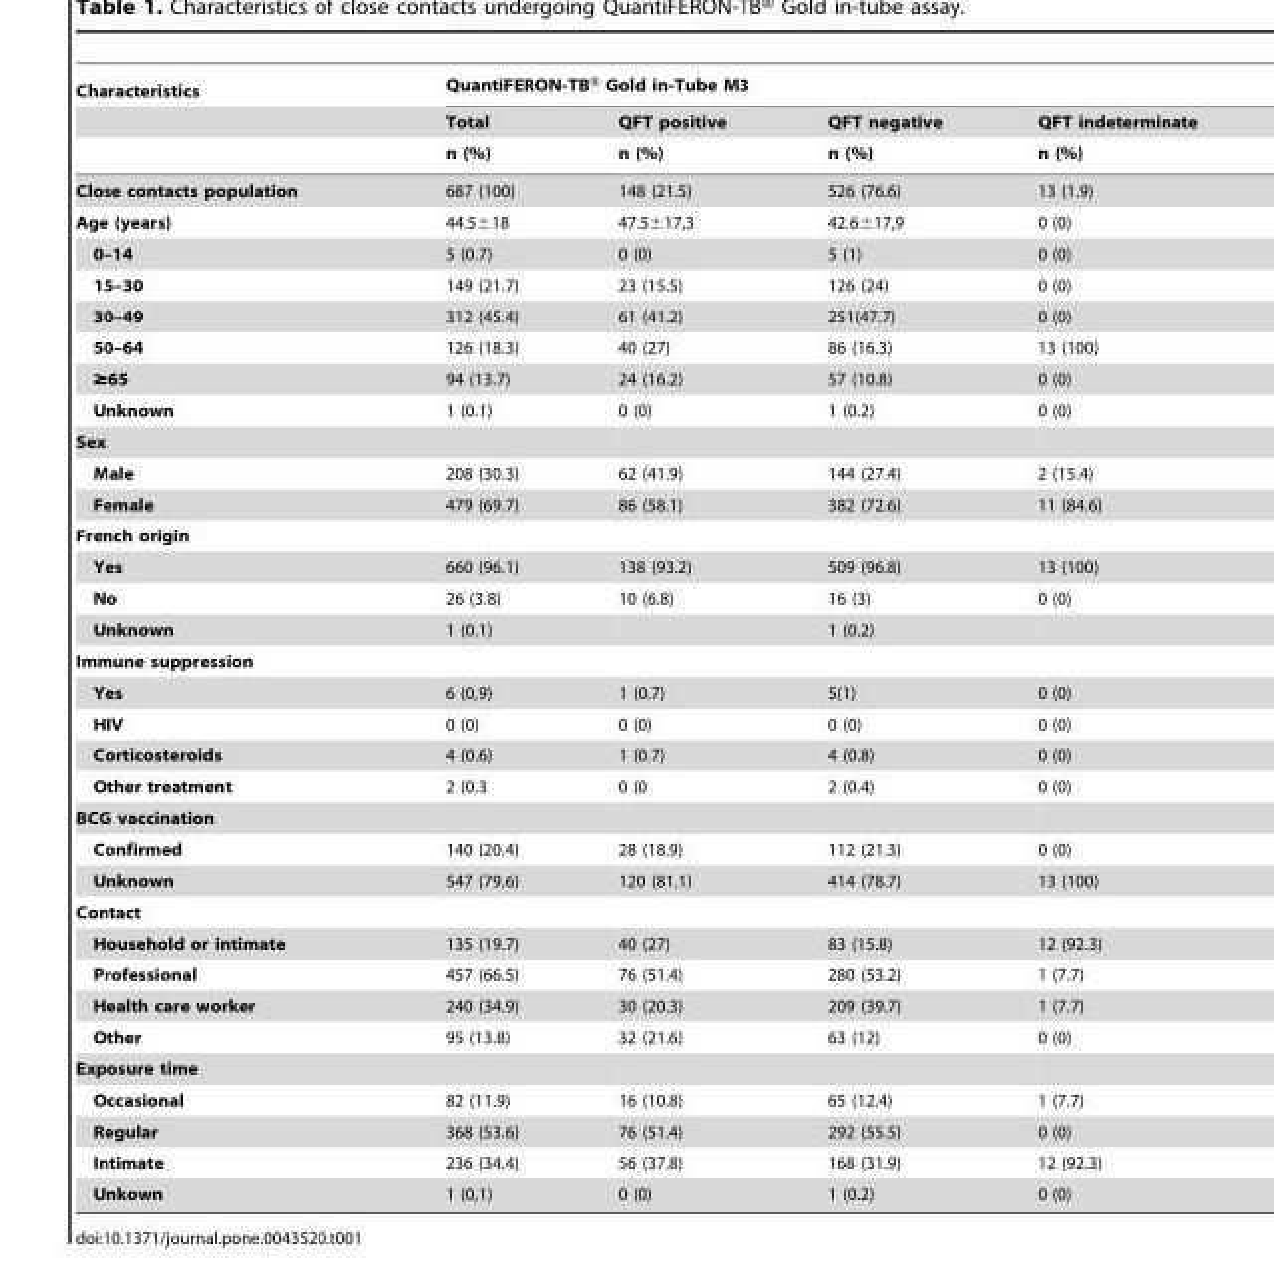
<table><thead><tr><td rowspan="3">Characteristics</td><td colspan="4">QuantiFERON-TB® Gold in-Tube M3</td></tr><tr><td rowspan="2">Total n (%)</td><td rowspan="2">QFT positive n (%)</td><td rowspan="2">QFT negative n (%)</td><td rowspan="2">QFT indeterminate n (%)</td></tr><tr></tr></thead><tbody><tr><td>Close contacts population</td><td>687 (100)</td><td>148 (21.5)</td><td>526 (76.6)</td><td>13 (1.9)</td></tr><tr><td>Age (years)</td><td>44.5±18</td><td>47.5±17,3</td><td>42.6±17,9</td><td>0 (0)</td></tr><tr><td>0–14</td><td>5 (0.7)</td><td>0 (0)</td><td>5 (1)</td><td>0 (0)</td></tr><tr><td>15–30</td><td>149 (21.7)</td><td>23 (15.5)</td><td>126 (24)</td><td>0 (0)</td></tr><tr><td>30–49</td><td>312 (45.4)</td><td>61 (41.2)</td><td>251(47.7)</td><td>0 (0)</td></tr><tr><td>50–64</td><td>126 (18.3)</td><td>40 (27)</td><td>86 (16.3)</td><td>13 (100)</td></tr><tr><td>≥65</td><td>94 (13.7)</td><td>24 (16.2)</td><td>57 (10.8)</td><td>0 (0)</td></tr><tr><td>Unknown</td><td>1 (0.1)</td><td>0 (0)</td><td>1 (0.2)</td><td>0 (0)</td></tr><tr><td colspan="5">Sex</td></tr><tr><td>Male</td><td>208 (30.3)</td><td>62 (41.9)</td><td>144 (27.4)</td><td>2 (15.4)</td></tr><tr><td>Female</td><td>479 (69.7)</td><td>86 (58.1)</td><td>382 (72.6)</td><td>11 (84.6)</td></tr><tr><td colspan="5">French origin</td></tr><tr><td>Yes</td><td>660 (96.1)</td><td>138 (93.2)</td><td>509 (96.8)</td><td>13 (100)</td></tr><tr><td>No</td><td>26 (3.8)</td><td>10 (6.8)</td><td>16 (3)</td><td>0 (0)</td></tr><tr><td>Unknown</td><td>1 (0.1)</td><td></td><td>1 (0.2)</td><td></td></tr><tr><td colspan="5">Immune suppression</td></tr><tr><td>Yes</td><td>6 (0,9)</td><td>1 (0.7)</td><td>5(1)</td><td>0 (0)</td></tr><tr><td>HIV</td><td>0 (0)</td><td>0 (0)</td><td>0 (0)</td><td>0 (0)</td></tr><tr><td>Corticosteroids</td><td>4 (0.6)</td><td>1 (0.7)</td><td>4 (0.8)</td><td>0 (0)</td></tr><tr><td>Other treatment</td><td>2 (0.3</td><td>0 (0</td><td>2 (0.4)</td><td>0 (0)</td></tr><tr><td colspan="5">BCG vaccination</td></tr><tr><td>Confirmed</td><td>140 (20.4)</td><td>28 (18.9)</td><td>112 (21.3)</td><td>0 (0)</td></tr><tr><td>Unknown</td><td>547 (79.6)</td><td>120 (81.1)</td><td>414 (78.7)</td><td>13 (100)</td></tr><tr><td colspan="5">Contact</td></tr><tr><td>Household or intimate</td><td>135 (19.7)</td><td>40 (27)</td><td>83 (15.8)</td><td>12 (92.3)</td></tr><tr><td>Professional</td><td>457 (66.5)</td><td>76 (51.4)</td><td>280 (53.2)</td><td>1 (7.7)</td></tr><tr><td>Health care worker</td><td>240 (34.9)</td><td>30 (20.3)</td><td>209 (39.7)</td><td>1 (7.7)</td></tr><tr><td>Other</td><td>95 (13.8)</td><td>32 (21.6)</td><td>63 (12)</td><td>0 (0)</td></tr><tr><td colspan="5">Exposure time</td></tr><tr><td>Occasional</td><td>82 (11.9)</td><td>16 (10.8)</td><td>65 (12.4)</td><td>1 (7.7)</td></tr><tr><td>Regular</td><td>368 (53.6)</td><td>76 (51.4)</td><td>292 (55.5)</td><td>0 (0)</td></tr><tr><td>Intimate</td><td>236 (34.4)</td><td>56 (37.8)</td><td>168 (31.9)</td><td>12 (92.3)</td></tr><tr><td>Unkown</td><td>1 (0,1)</td><td>0 (0)</td><td>1 (0.2)</td><td>0 (0)</td></tr></tbody></table>